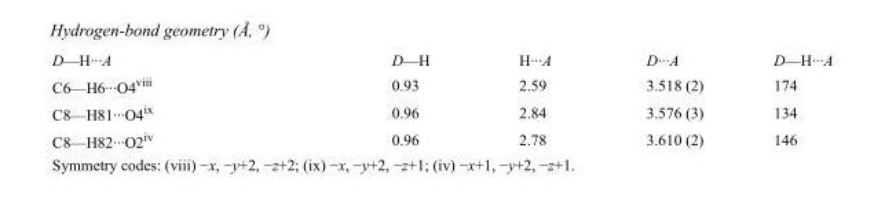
<table><tbody><tr><td>D—H···A</td><td>D—H</td><td>H···A</td><td>D···A</td><td>D—H···A</td></tr><tr><td>C6—H6···O4<sup>viii</sup></td><td>0.93</td><td>2.59</td><td>3.518 (2)</td><td>174</td></tr><tr><td>C8—H81···O4<sup>ix</sup></td><td>0.96</td><td>2.84</td><td>3.576 (3)</td><td>134</td></tr><tr><td>C8—H82···O2<sup>iv</sup></td><td>0.96</td><td>2.78</td><td>3.610 (2)</td><td>146</td></tr></tbody></table>